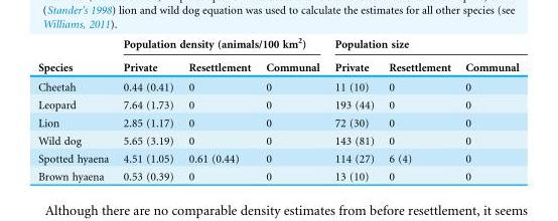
<table><thead><tr><td rowspan="2">Species</td><td colspan="3">Population density (animals/100 km<sup>2</sup>)</td><td colspan="3">Population size</td></tr><tr><td>Private</td><td>Resettlement</td><td>Communal</td><td>Private</td><td>Resettlement</td><td>Communal</td></tr></thead><tbody><tr><td>Cheetah</td><td>0.44 (0.41)</td><td>0</td><td>0</td><td>11 (10)</td><td>0</td><td>0</td></tr><tr><td>Leopard</td><td>7.64 (1.73)</td><td>0</td><td>0</td><td>193 (44)</td><td>0</td><td>0</td></tr><tr><td>Lion</td><td>2.85 (1.17)</td><td>0</td><td>0</td><td>72 (30)</td><td>0</td><td>0</td></tr><tr><td>Wild dog</td><td>5.65 (3.19)</td><td>0</td><td>0</td><td>143 (81)</td><td>0</td><td>0</td></tr><tr><td>Spotted hyaena</td><td>4.51 (1.05)</td><td>0.61 (0.44)</td><td>0</td><td>114 (27)</td><td>6 (4)</td><td>0</td></tr><tr><td>Brown hyaena</td><td>0.53 (0.39)</td><td>0</td><td>0</td><td>13 (10)</td><td>0</td><td>0</td></tr></tbody></table>